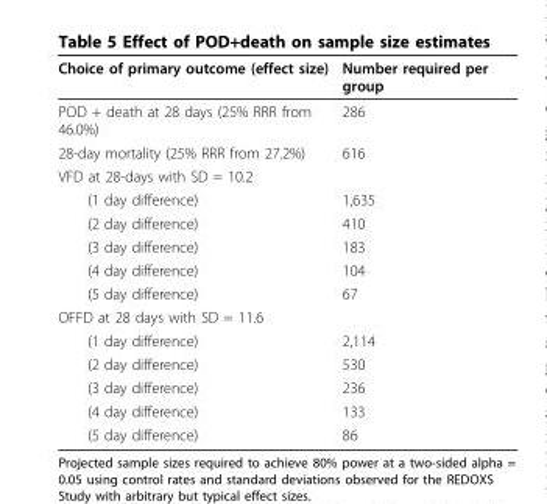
<table><thead><tr><td>Choice of primary outcome (effect size)</td><td>Number required per group</td></tr></thead><tbody><tr><td>POD + death at 28 days (25% RRR from 46.0%)</td><td>286</td></tr><tr><td>28-day mortality (25% RRR from 27.2%)</td><td>616</td></tr><tr><td colspan="2">VFD at 28-days with SD = 10.2</td></tr><tr><td>(1 day difference)</td><td>1,635</td></tr><tr><td>(2 day difference)</td><td>410</td></tr><tr><td>(3 day difference)</td><td>183</td></tr><tr><td>(4 day difference)</td><td>104</td></tr><tr><td>(5 day difference)</td><td>67</td></tr><tr><td colspan="2">OFFD at 28 days with SD = 11.6</td></tr><tr><td>(1 day difference)</td><td>2,114</td></tr><tr><td>(2 day difference)</td><td>530</td></tr><tr><td>(3 day difference)</td><td>236</td></tr><tr><td>(4 day difference)</td><td>133</td></tr><tr><td>(5 day difference)</td><td>86</td></tr></tbody></table>